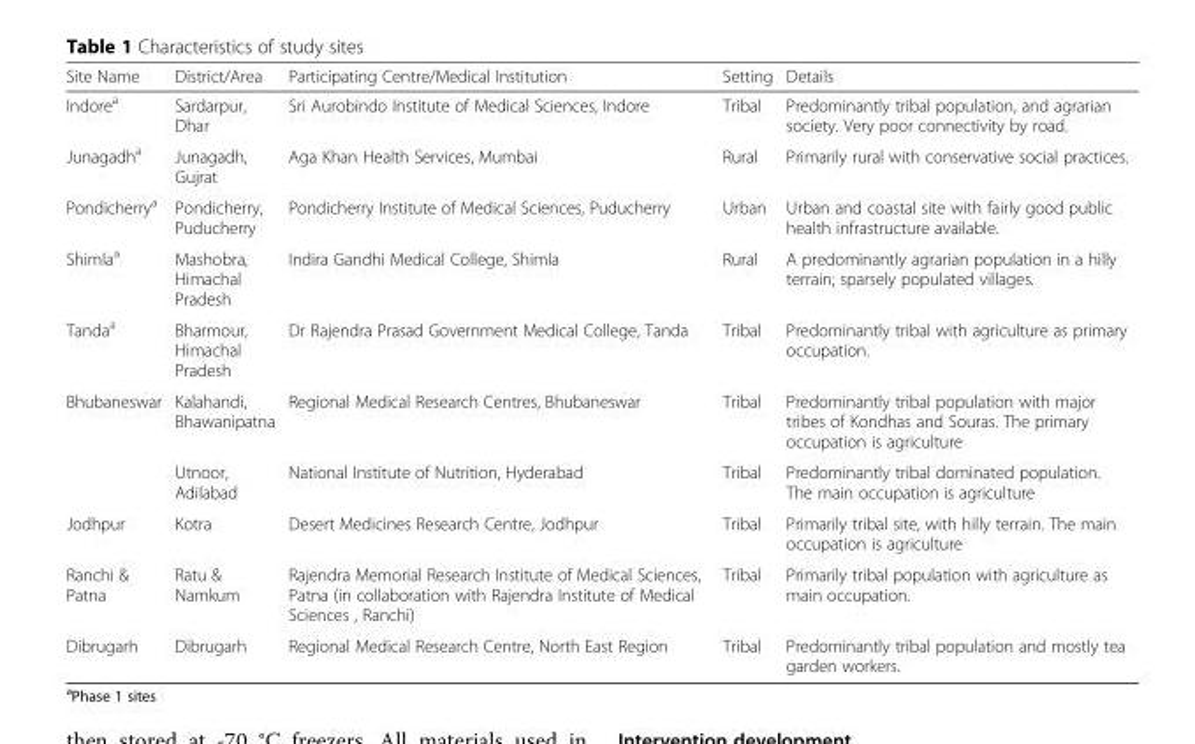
<table><thead><tr><td>Site Name</td><td>District/Area</td><td>Participating Centre/Medical Institution</td><td>Setting</td><td>Details</td></tr></thead><tbody><tr><td>Indore<sup>a</sup></td><td>Sardarpur, Dhar</td><td>Sri Aurobindo Institute of Medical Sciences, Indore</td><td>Tribal</td><td>Predominantly tribal population, and agrarian society. Very poor connectivity by road.</td></tr><tr><td>Junagadh<sup>a</sup></td><td>Junagadh, Gujrat</td><td>Aga Khan Health Services, Mumbai</td><td>Rural</td><td>Primarily rural with conservative social practices.</td></tr><tr><td>Pondicherry<sup>a</sup></td><td>Pondicherry, Puducherry</td><td>Pondicherry Institute of Medical Sciences, Puducherry</td><td>Urban</td><td>Urban and coastal site with fairly good public health infrastructure available.</td></tr><tr><td>Shimla<sup>a</sup></td><td>Mashobra, Himachal Pradesh</td><td>Indira Gandhi Medical College, Shimla</td><td>Rural</td><td>A predominantly agrarian population in a hilly terrain; sparsely populated villages.</td></tr><tr><td>Tanda<sup>a</sup></td><td>Bharmour, Himachal Pradesh</td><td>Dr Rajendra Prasad Government Medical College, Tanda</td><td>Tribal</td><td>Predominantly tribal with agriculture as primary occupation.</td></tr><tr><td rowspan="2">Bhubaneswar</td><td>Kalahandi, Bhawanipatna</td><td>Regional Medical Research Centres, Bhubaneswar</td><td>Tribal</td><td>Predominantly tribal population with major tribes of Kondhas and Souras. The primary occupation is agriculture</td></tr><tr><td>Utnoor, Adilabad</td><td>National Institute of Nutrition, Hyderabad</td><td>Tribal</td><td>Predominantly tribal dominated population. The main occupation is agriculture</td></tr><tr><td>Jodhpur</td><td>Kotra</td><td>Desert Medicines Research Centre, Jodhpur</td><td>Tribal</td><td>Primarily tribal site, with hilly terrain. The main occupation is agriculture</td></tr><tr><td>Ranchi &amp; Patna</td><td>Ratu &amp; Namkum</td><td>Rajendra Memorial Research Institute of Medical Sciences, Patna (in collaboration with Rajendra Institute of Medical Sciences , Ranchi)</td><td>Tribal</td><td>Primarily tribal population with agriculture as main occupation.</td></tr><tr><td>Dibrugarh</td><td>Dibrugarh</td><td>Regional Medical Research Centre, North East Region</td><td>Tribal</td><td>Predominantly tribal population and mostly tea garden workers.</td></tr></tbody></table>